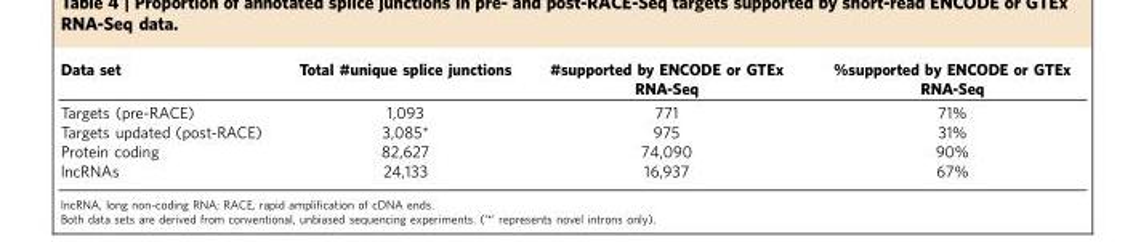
<table><thead><tr><td>Data set</td><td>Total #unique splice junctions</td><td>#supported by ENCODE or GTEx RNA-Seq</td><td>%supported by ENCODE or GTEx RNA-Seq</td></tr></thead><tbody><tr><td>Targets (pre-RACE)</td><td>1,093</td><td>771</td><td>71%</td></tr><tr><td>Targets updated (post-RACE)</td><td>3,085*</td><td>975</td><td>31%</td></tr><tr><td>Protein coding</td><td>82,627</td><td>74,090</td><td>90%</td></tr><tr><td>lncRNAs</td><td>24,133</td><td>16,937</td><td>67%</td></tr></tbody></table>